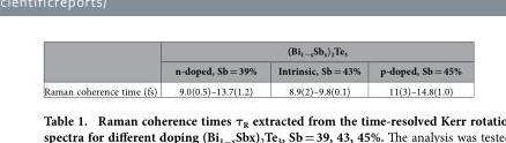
<table><thead><tr><td rowspan="2"></td><td colspan="3">(Bi<sub>1−x</sub>Sb<sub>x</sub>)<sub>2</sub>Te<sub>3</sub></td></tr><tr><td>n-doped, Sb = 39%</td><td>Intrinsic, Sb = 43%</td><td>p-doped, Sb = 45%</td></tr></thead><tbody><tr><td>Raman coherence time (fs)</td><td>9.0(0.5)–13.7(1.2)</td><td>8.9(2)–9.8(0.1)</td><td>11(3)–14.8(1.0)</td></tr></tbody></table>